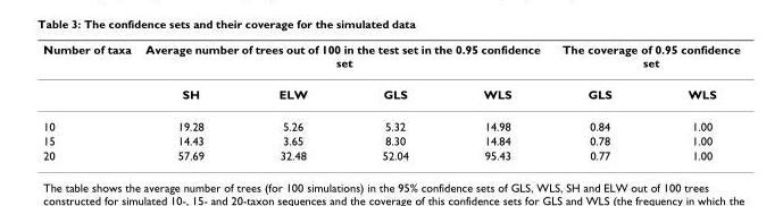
<table><thead><tr><td rowspan="2">Number of taxa</td><td colspan="4">Average number of trees out of 100 in the test set in the 0.95 confidence set</td><td colspan="2">The coverage of 0.95 confidence set</td></tr><tr><td>SH</td><td>ELW</td><td>GLS</td><td>WLS</td><td>GLS</td><td>WLS</td></tr></thead><tbody><tr><td>10</td><td>19.28</td><td>5.26</td><td>5.32</td><td>14.98</td><td>0.84</td><td>1.00</td></tr><tr><td>15</td><td>14.43</td><td>3.65</td><td>8.30</td><td>14.84</td><td>0.78</td><td>1.00</td></tr><tr><td>20</td><td>57.69</td><td>32.48</td><td>52.04</td><td>95.43</td><td>0.77</td><td>1.00</td></tr></tbody></table>